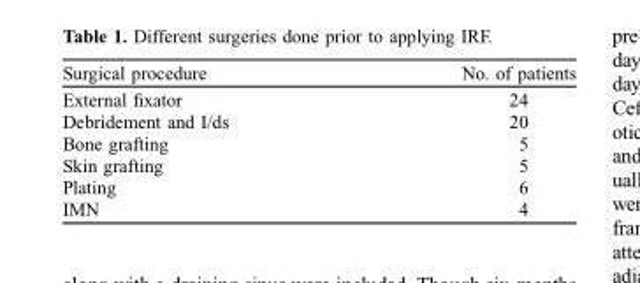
<table><thead><tr><td>Surgical procedure</td><td>No. of patients</td></tr></thead><tbody><tr><td>External fixator</td><td>24</td></tr><tr><td>Debridement and I/ds</td><td>20</td></tr><tr><td>Bone grafting</td><td>5</td></tr><tr><td>Skin grafting</td><td>5</td></tr><tr><td>Plating</td><td>6</td></tr><tr><td>IMN</td><td>4</td></tr></tbody></table>